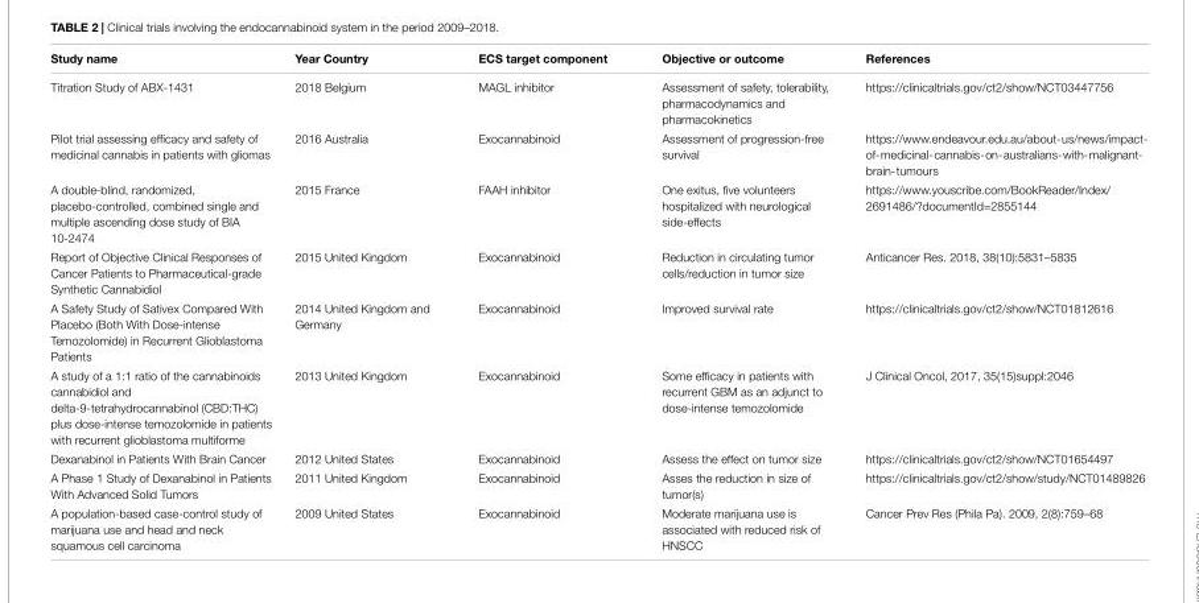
<table><thead><tr><td>Study name</td><td>Year Country</td><td>ECS target component</td><td>Objective or outcome</td><td>References</td></tr></thead><tbody><tr><td>Titration Study of ABX-1431</td><td>2018 Belgium</td><td>MAGL inhibitor</td><td>Assessment of safety, tolerability, pharmacodynamics and pharmacokinetics</td><td>https://clinicaltrials.gov/ct2/show/NCT03447756</td></tr><tr><td>Pilot trial assessing efficacy and safety of medicinal cannabis in patients with gliomas</td><td>2016 Australia</td><td>Exocannabinoid</td><td>Assessment of progression-free survival</td><td>https://www.endeavour.edu.au/about-us/news/impact- of-medicinal-cannabis-on-australians-with-malignant- brain-tumours</td></tr><tr><td>A double-blind, randomized, placebo-controlled, combined single and multiple ascending dose study of BIA 10-2474</td><td>2015 France</td><td>FAAH inhibitor</td><td>One exitus, five volunteers hospitalized with neurological side-effects</td><td>https://www.youscribe.com/BookReader/Index/ 2691486/?documentId=2855144</td></tr><tr><td>Report of Objective Clinical Responses of Cancer Patients to Pharmaceutical-grade Synthetic Cannabidiol</td><td>2015 United Kingdom</td><td>Exocannabinoid</td><td>Reduction in circulating tumor cells/reduction in tumor size</td><td>Anticancer Res. 2018, 38(10):5831–5835</td></tr><tr><td>A Safety Study of Sativex Compared With Placebo (Both With Dose-intense Temozolomide) in Recurrent Glioblastoma Patients</td><td>2014 United Kingdom and Germany</td><td>Exocannabinoid</td><td>Improved survival rate</td><td>https://clinicaltrials.gov/ct2/show/NCT01812616</td></tr><tr><td>A study of a 1:1 ratio of the cannabinoids cannabidiol and delta-9-tetrahydrocannabinol (CBD:THC) plus dose-intense temozolomide in patients with recurrent glioblastoma multiforme</td><td>2013 United Kingdom</td><td>Exocannabinoid</td><td>Some efficacy in patients with recurrent GBM as an adjunct to dose-intense temozolomide</td><td>J Clinical Oncol, 2017, 35(15)suppl:2046</td></tr><tr><td>Dexanabinol in Patients With Brain Cancer</td><td>2012 United States</td><td>Exocannabinoid</td><td>Assess the effect on tumor size</td><td>https://clinicaltrials.gov/ct2/show/NCT01654497</td></tr><tr><td>A Phase 1 Study of Dexanabinol in Patients With Advanced Solid Tumors</td><td>2011 United Kingdom</td><td>Exocannabinoid</td><td>Asses the reduction in size of tumor(s)</td><td>https://clinicaltrials.gov/ct2/show/study/NCT01489826</td></tr><tr><td>A population-based case-control study of marijuana use and head and neck squamous cell carcinoma</td><td>2009 United States</td><td>Exocannabinoid</td><td>Moderate marijuana use is associated with reduced risk of HNSCC</td><td>Cancer Prev Res (Phila Pa). 2009, 2(8):759–68</td></tr></tbody></table>